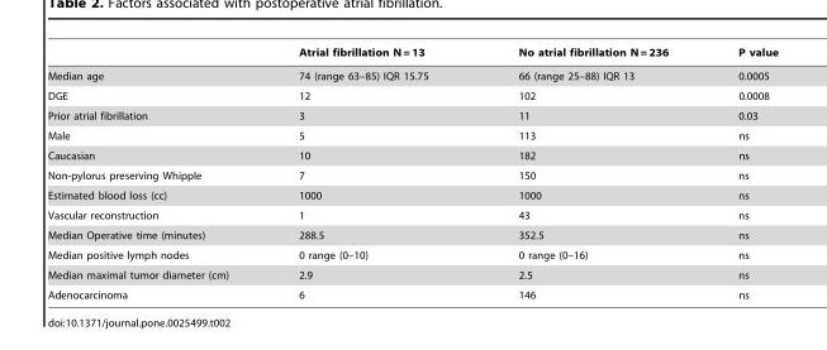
<table><thead><tr><td></td><td>Atrial fibrillation N = 13</td><td>No atrial fibrillation N = 236</td><td>P value</td></tr></thead><tbody><tr><td>Median age</td><td>74 (range 63–85) IQR 15.75</td><td>66 (range 25–88) IQR 13</td><td>0.0005</td></tr><tr><td>DGE</td><td>12</td><td>102</td><td>0.0008</td></tr><tr><td>Prior atrial fibrillation</td><td>3</td><td>11</td><td>0.03</td></tr><tr><td>Male</td><td>5</td><td>113</td><td>ns</td></tr><tr><td>Caucasian</td><td>10</td><td>182</td><td>ns</td></tr><tr><td>Non-pylorus preserving Whipple</td><td>7</td><td>150</td><td>ns</td></tr><tr><td>Estimated blood loss (cc)</td><td>1000</td><td>1000</td><td>ns</td></tr><tr><td>Vascular reconstruction</td><td>1</td><td>43</td><td>ns</td></tr><tr><td>Median Operative time (minutes)</td><td>288.5</td><td>352.5</td><td>ns</td></tr><tr><td>Median positive lymph nodes</td><td>0 range (0–10)</td><td>0 range (0–16)</td><td>ns</td></tr><tr><td>Median maximal tumor diameter (cm)</td><td>2.9</td><td>2.5</td><td>ns</td></tr><tr><td>Adenocarcinoma</td><td>6</td><td>146</td><td>ns</td></tr></tbody></table>